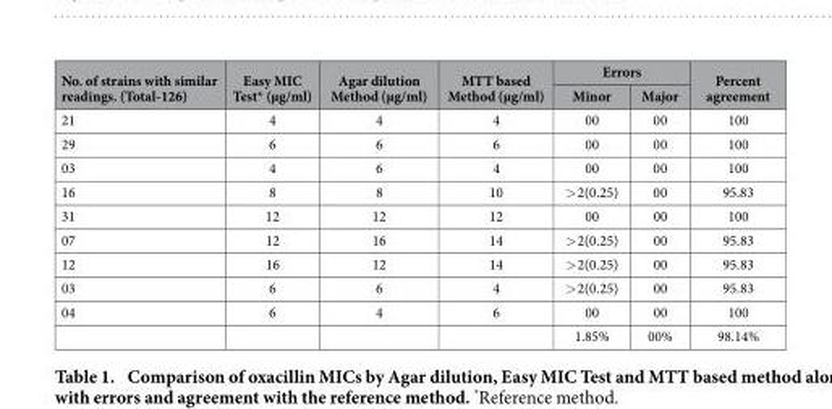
<table><thead><tr><td rowspan="2">No. of strains with similar readings. (Total-126)</td><td rowspan="2">Easy MIC Test* (μg/ml)</td><td rowspan="2">Agar dilution Method (μg/ml)</td><td rowspan="2">MTT based Method (μg/ml)</td><td colspan="2">Errors</td><td rowspan="2">Percent agreement</td></tr><tr><td>Minor</td><td>Major</td></tr></thead><tbody><tr><td>21</td><td>4</td><td>4</td><td>4</td><td>00</td><td>00</td><td>100</td></tr><tr><td>29</td><td>6</td><td>6</td><td>6</td><td>00</td><td>00</td><td>100</td></tr><tr><td>03</td><td>4</td><td>6</td><td>4</td><td>00</td><td>00</td><td>100</td></tr><tr><td>16</td><td>8</td><td>8</td><td>10</td><td>&gt; 2(0.25)</td><td>00</td><td>95.83</td></tr><tr><td>31</td><td>12</td><td>12</td><td>12</td><td>00</td><td>00</td><td>100</td></tr><tr><td>07</td><td>12</td><td>16</td><td>14</td><td>&gt; 2(0.25)</td><td>00</td><td>95.83</td></tr><tr><td>12</td><td>16</td><td>12</td><td>14</td><td>&gt; 2(0.25)</td><td>00</td><td>95.83</td></tr><tr><td>03</td><td>6</td><td>6</td><td>4</td><td>&gt; 2(0.25)</td><td>00</td><td>95.83</td></tr><tr><td rowspan="2">04</td><td>6</td><td>4</td><td>6</td><td>00</td><td>00</td><td>100</td></tr><tr><td></td><td></td><td></td><td>1.85%</td><td>00%</td><td>98.14%</td></tr></tbody></table>